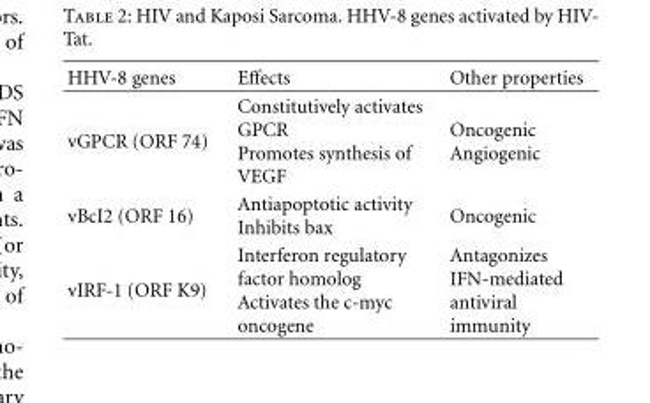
<table><thead><tr><td>HHV-8 genes</td><td>Effects</td><td>Other properties</td></tr></thead><tbody><tr><td>vGPCR (ORF 74)</td><td>Constitutively activates GPCR Promotes synthesis of VEGF</td><td>Oncogenic Angiogenic</td></tr><tr><td>vBcI2 (ORF 16)</td><td>Antiapoptotic activity Inhibits bax</td><td>Oncogenic</td></tr><tr><td>vIRF-1 (ORF K9)</td><td>Interferon regulatory factor homolog Activates the c-myc oncogene</td><td>Antagonizes IFN-mediated antiviral immunity</td></tr></tbody></table>